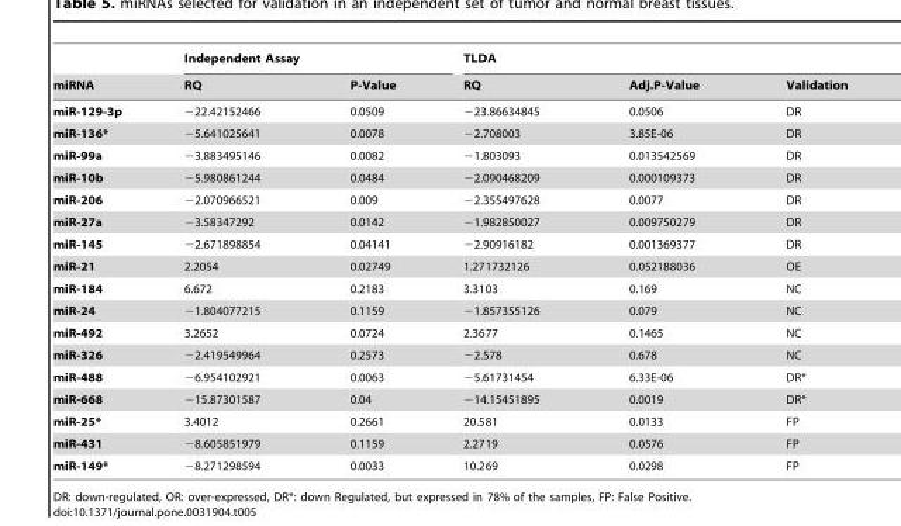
<table><thead><tr><td rowspan="2">miRNA</td><td colspan="2">Independent Assay</td><td colspan="3">TLDA</td></tr><tr><td>RQ</td><td>P-Value</td><td>RQ</td><td>Adj.P-Value</td><td>Validation</td></tr></thead><tbody><tr><td>miR-129-3p</td><td>−22.42152466</td><td>0.0509</td><td>−23.86634845</td><td>0.0506</td><td>DR</td></tr><tr><td>miR-136*</td><td>−5.641025641</td><td>0.0078</td><td>−2.708003</td><td>3.85E-06</td><td>DR</td></tr><tr><td>miR-99a</td><td>−3.883495146</td><td>0.0082</td><td>−1.803093</td><td>0.013542569</td><td>DR</td></tr><tr><td>miR-10b</td><td>−5.980861244</td><td>0.0484</td><td>−2.090468209</td><td>0.000109373</td><td>DR</td></tr><tr><td>miR-206</td><td>−2.070966521</td><td>0.009</td><td>−2.355497628</td><td>0.0077</td><td>DR</td></tr><tr><td>miR-27a</td><td>−3.58347292</td><td>0.0142</td><td>−1.982850027</td><td>0.009750279</td><td>DR</td></tr><tr><td>miR-145</td><td>−2.671898854</td><td>0.04141</td><td>−2.90916182</td><td>0.001369377</td><td>DR</td></tr><tr><td>miR-21</td><td>2.2054</td><td>0.02749</td><td>1.271732126</td><td>0.052188036</td><td>OE</td></tr><tr><td>miR-184</td><td>6.672</td><td>0.2183</td><td>3.3103</td><td>0.169</td><td>NC</td></tr><tr><td>miR-24</td><td>−1.804077215</td><td>0.1159</td><td>−1.857355126</td><td>0.079</td><td>NC</td></tr><tr><td>miR-492</td><td>3.2652</td><td>0.0724</td><td>2.3677</td><td>0.1465</td><td>NC</td></tr><tr><td>miR-326</td><td>−2.419549964</td><td>0.2573</td><td>−2.578</td><td>0.678</td><td>NC</td></tr><tr><td>miR-488</td><td>−6.954102921</td><td>0.0063</td><td>−5.61731454</td><td>6.33E-06</td><td>DR*</td></tr><tr><td>miR-668</td><td>−15.87301587</td><td>0.04</td><td>−14.15451895</td><td>0.0019</td><td>DR*</td></tr><tr><td>miR-25*</td><td>3.4012</td><td>0.2661</td><td>20.581</td><td>0.0133</td><td>FP</td></tr><tr><td>miR-431</td><td>−8.605851979</td><td>0.1159</td><td>2.2719</td><td>0.0576</td><td>FP</td></tr><tr><td>miR-149*</td><td>−8.271298594</td><td>0.0033</td><td>10.269</td><td>0.0298</td><td>FP</td></tr></tbody></table>